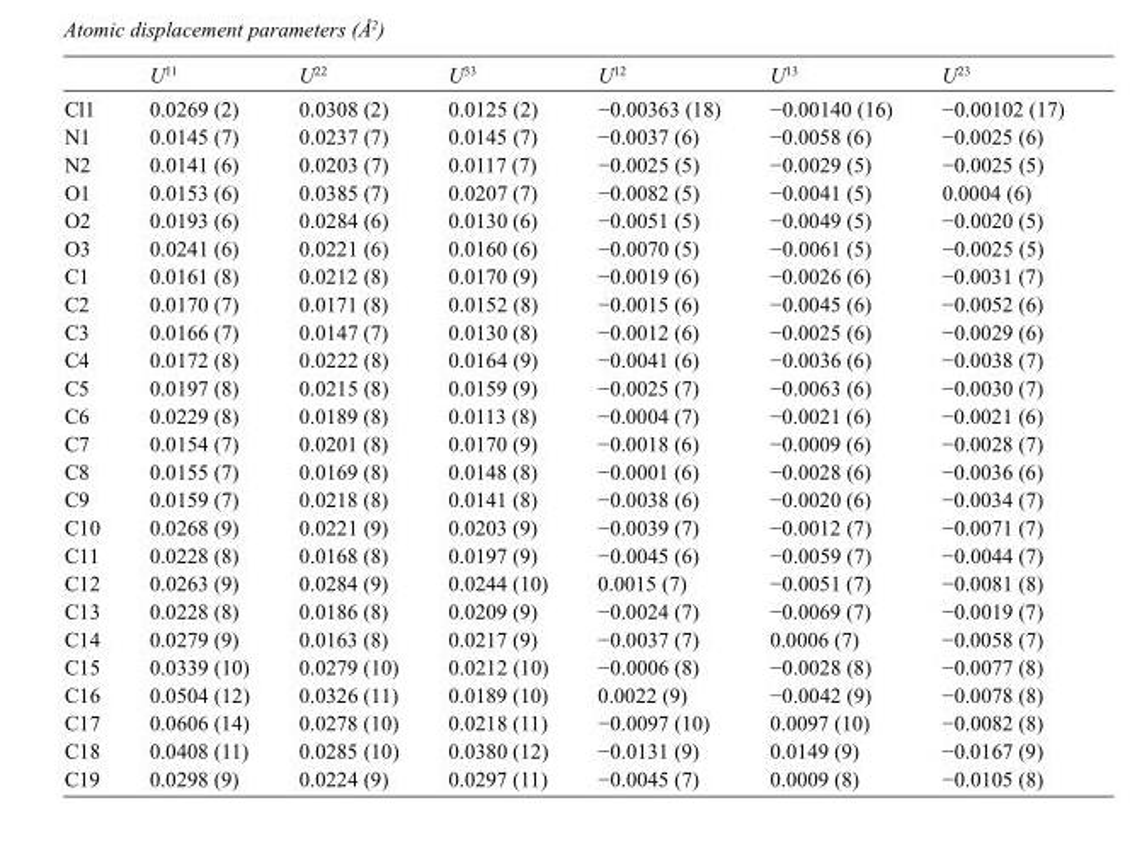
<table><thead><tr><td></td><td>U<sup>11</sup></td><td>U<sup>22</sup></td><td>U<sup>33</sup></td><td>U<sup>12</sup></td><td>U<sup>13</sup></td><td>U<sup>23</sup></td></tr></thead><tbody><tr><td>Cl1</td><td>0.0269 (2)</td><td>0.0308 (2)</td><td>0.0125 (2)</td><td>−0.00363 (18)</td><td>−0.00140 (16)</td><td>−0.00102 (17)</td></tr><tr><td>N1</td><td>0.0145 (7)</td><td>0.0237 (7)</td><td>0.0145 (7)</td><td>−0.0037 (6)</td><td>−0.0058 (6)</td><td>−0.0025 (6)</td></tr><tr><td>N2</td><td>0.0141 (6)</td><td>0.0203 (7)</td><td>0.0117 (7)</td><td>−0.0025 (5)</td><td>−0.0029 (5)</td><td>−0.0025 (5)</td></tr><tr><td>O1</td><td>0.0153 (6)</td><td>0.0385 (7)</td><td>0.0207 (7)</td><td>−0.0082 (5)</td><td>−0.0041 (5)</td><td>0.0004 (6)</td></tr><tr><td>O2</td><td>0.0193 (6)</td><td>0.0284 (6)</td><td>0.0130 (6)</td><td>−0.0051 (5)</td><td>−0.0049 (5)</td><td>−0.0020 (5)</td></tr><tr><td>O3</td><td>0.0241 (6)</td><td>0.0221 (6)</td><td>0.0160 (6)</td><td>−0.0070 (5)</td><td>−0.0061 (5)</td><td>−0.0025 (5)</td></tr><tr><td>C1</td><td>0.0161 (8)</td><td>0.0212 (8)</td><td>0.0170 (9)</td><td>−0.0019 (6)</td><td>−0.0026 (6)</td><td>−0.0031 (7)</td></tr><tr><td>C2</td><td>0.0170 (7)</td><td>0.0171 (8)</td><td>0.0152 (8)</td><td>−0.0015 (6)</td><td>−0.0045 (6)</td><td>−0.0052 (6)</td></tr><tr><td>C3</td><td>0.0166 (7)</td><td>0.0147 (7)</td><td>0.0130 (8)</td><td>−0.0012 (6)</td><td>−0.0025 (6)</td><td>−0.0029 (6)</td></tr><tr><td>C4</td><td>0.0172 (8)</td><td>0.0222 (8)</td><td>0.0164 (9)</td><td>−0.0041 (6)</td><td>−0.0036 (6)</td><td>−0.0038 (7)</td></tr><tr><td>C5</td><td>0.0197 (8)</td><td>0.0215 (8)</td><td>0.0159 (9)</td><td>−0.0025 (7)</td><td>−0.0063 (6)</td><td>−0.0030 (7)</td></tr><tr><td>C6</td><td>0.0229 (8)</td><td>0.0189 (8)</td><td>0.0113 (8)</td><td>−0.0004 (7)</td><td>−0.0021 (6)</td><td>−0.0021 (6)</td></tr><tr><td>C7</td><td>0.0154 (7)</td><td>0.0201 (8)</td><td>0.0170 (9)</td><td>−0.0018 (6)</td><td>−0.0009 (6)</td><td>−0.0028 (7)</td></tr><tr><td>C8</td><td>0.0155 (7)</td><td>0.0169 (8)</td><td>0.0148 (8)</td><td>−0.0001 (6)</td><td>−0.0028 (6)</td><td>−0.0036 (6)</td></tr><tr><td>C9</td><td>0.0159 (7)</td><td>0.0218 (8)</td><td>0.0141 (8)</td><td>−0.0038 (6)</td><td>−0.0020 (6)</td><td>−0.0034 (7)</td></tr><tr><td>C10</td><td>0.0268 (9)</td><td>0.0221 (9)</td><td>0.0203 (9)</td><td>−0.0039 (7)</td><td>−0.0012 (7)</td><td>−0.0071 (7)</td></tr><tr><td>C11</td><td>0.0228 (8)</td><td>0.0168 (8)</td><td>0.0197 (9)</td><td>−0.0045 (6)</td><td>−0.0059 (7)</td><td>−0.0044 (7)</td></tr><tr><td>C12</td><td>0.0263 (9)</td><td>0.0284 (9)</td><td>0.0244 (10)</td><td>0.0015 (7)</td><td>−0.0051 (7)</td><td>−0.0081 (8)</td></tr><tr><td>C13</td><td>0.0228 (8)</td><td>0.0186 (8)</td><td>0.0209 (9)</td><td>−0.0024 (7)</td><td>−0.0069 (7)</td><td>−0.0019 (7)</td></tr><tr><td>C14</td><td>0.0279 (9)</td><td>0.0163 (8)</td><td>0.0217 (9)</td><td>−0.0037 (7)</td><td>0.0006 (7)</td><td>−0.0058 (7)</td></tr><tr><td>C15</td><td>0.0339 (10)</td><td>0.0279 (10)</td><td>0.0212 (10)</td><td>−0.0006 (8)</td><td>−0.0028 (8)</td><td>−0.0077 (8)</td></tr><tr><td>C16</td><td>0.0504 (12)</td><td>0.0326 (11)</td><td>0.0189 (10)</td><td>0.0022 (9)</td><td>−0.0042 (9)</td><td>−0.0078 (8)</td></tr><tr><td>C17</td><td>0.0606 (14)</td><td>0.0278 (10)</td><td>0.0218 (11)</td><td>−0.0097 (10)</td><td>0.0097 (10)</td><td>−0.0082 (8)</td></tr><tr><td>C18</td><td>0.0408 (11)</td><td>0.0285 (10)</td><td>0.0380 (12)</td><td>−0.0131 (9)</td><td>0.0149 (9)</td><td>−0.0167 (9)</td></tr><tr><td>C19</td><td>0.0298 (9)</td><td>0.0224 (9)</td><td>0.0297 (11)</td><td>−0.0045 (7)</td><td>0.0009 (8)</td><td>−0.0105 (8)</td></tr></tbody></table>